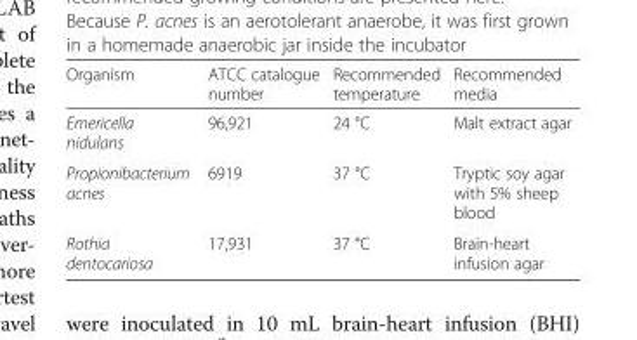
<table><thead><tr><td>Organism</td><td>ATCC catalogue number</td><td>Recommended temperature</td><td>Recommended media</td></tr></thead><tbody><tr><td>Emericella nidulans</td><td>96,921</td><td>24 °C</td><td>Malt extract agar</td></tr><tr><td>Propionibacterium acnes</td><td>6919</td><td>37 °C</td><td>Tryptic soy agar with 5% sheep blood</td></tr><tr><td>Rothia dentocariosa</td><td>17,931</td><td>37 °C</td><td>Brain-heart infusion agar</td></tr></tbody></table>